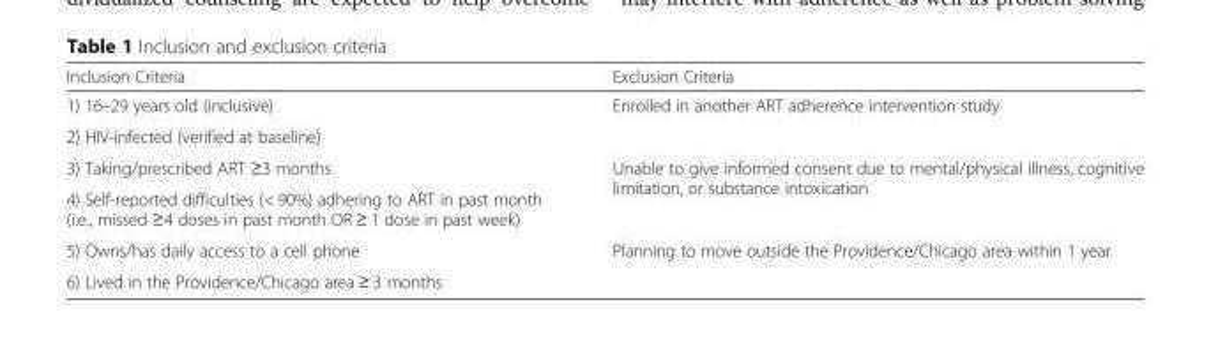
<table><thead><tr><td>Inclusion Criteria</td><td>Exclusion Criteria</td></tr></thead><tbody><tr><td>1) 16–29 years old (inclusive)</td><td rowspan="2">Enrolled in another ART adherence intervention study</td></tr><tr><td>2) HIV-infected (verified at baseline)</td></tr><tr><td>3) Taking/prescribed ART ≥3 months</td><td rowspan="2">Unable to give informed consent due to mental/physical illness, cognitive limitation, or substance intoxication</td></tr><tr><td>4) Self-reported difficulties (&lt; 90%) adhering to ART in past month (i.e., missed ≥4 doses in past month OR ≥ 1 dose in past week)</td></tr><tr><td>5) Owns/has daily access to a cell phone</td><td rowspan="2">Planning to move outside the Providence/Chicago area within 1 year</td></tr><tr><td>6) Lived in the Providence/Chicago area ≥ 3 months</td></tr></tbody></table>